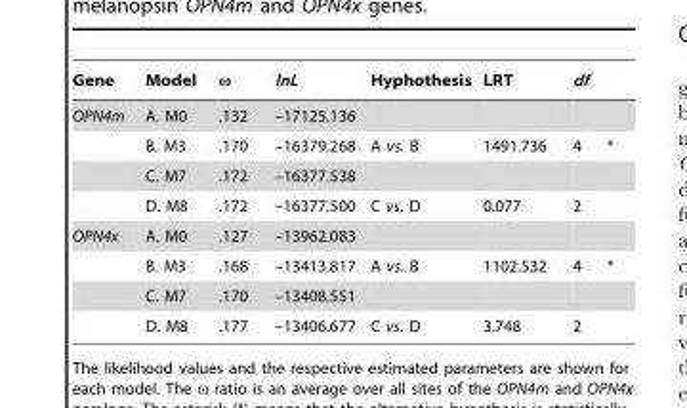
<table><thead><tr><td>Gene</td><td>Model</td><td>ω</td><td>lnL</td><td>Hyphothesis</td><td>LRT</td><td>df</td><td></td></tr></thead><tbody><tr><td rowspan="4">OPN4m</td><td>A. M0</td><td>.132</td><td>–17125.136</td><td></td><td></td><td></td><td></td></tr><tr><td>B. M3</td><td>.170</td><td>–16379.268</td><td>A vs. B</td><td>1491.736</td><td>4</td><td>*</td></tr><tr><td>C. M7</td><td>.172</td><td>–16377.538</td><td></td><td></td><td></td><td></td></tr><tr><td>D. M8</td><td>.172</td><td>–16377.500</td><td>C vs. D</td><td>0.077</td><td>2</td><td></td></tr><tr><td rowspan="4">OPN4x</td><td>A. M0</td><td>.127</td><td>–13962.083</td><td></td><td></td><td></td><td></td></tr><tr><td>B. M3</td><td>.168</td><td>–13413.817</td><td>A vs. B</td><td>1102.532</td><td>4</td><td>*</td></tr><tr><td>C. M7</td><td>.170</td><td>–13408.551</td><td></td><td></td><td></td><td></td></tr><tr><td>D. M8</td><td>.177</td><td>–13406.677</td><td>C vs. D</td><td>3.748</td><td>2</td><td></td></tr></tbody></table>